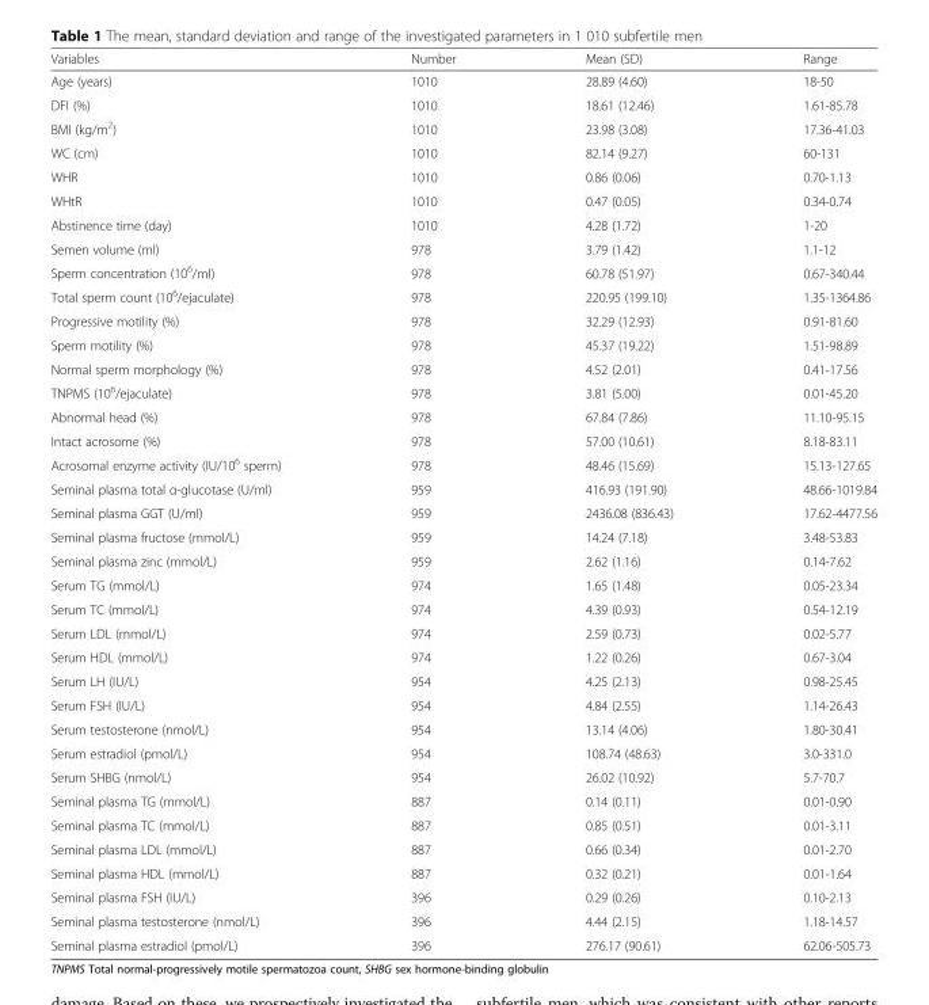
<table><thead><tr><td>Variables</td><td>Number</td><td>Mean (SD)</td><td>Range</td></tr></thead><tbody><tr><td>Age (years)</td><td>1010</td><td>28.89 (4.60)</td><td>18-50</td></tr><tr><td>DFI (%)</td><td>1010</td><td>18.61 (12.46)</td><td>1.61-85.78</td></tr><tr><td>BMI (kg/m<sup>2</sup>)</td><td>1010</td><td>23.98 (3.08)</td><td>17.36-41.03</td></tr><tr><td>WC (cm)</td><td>1010</td><td>82.14 (9.27)</td><td>60-131</td></tr><tr><td>WHR</td><td>1010</td><td>0.86 (0.06)</td><td>0.70-1.13</td></tr><tr><td>WHtR</td><td>1010</td><td>0.47 (0.05)</td><td>0.34-0.74</td></tr><tr><td>Abstinence time (day)</td><td>1010</td><td>4.28 (1.72)</td><td>1-20</td></tr><tr><td>Semen volume (ml)</td><td>978</td><td>3.79 (1.42)</td><td>1.1-12</td></tr><tr><td>Sperm concentration (10<sup>6</sup>/ml)</td><td>978</td><td>60.78 (51.97)</td><td>0.67-340.44</td></tr><tr><td>Total sperm count (10<sup>6</sup>/ejaculate)</td><td>978</td><td>220.95 (199.10)</td><td>1.35-1364.86</td></tr><tr><td>Progressive motility (%)</td><td>978</td><td>32.29 (12.93)</td><td>0.91-81.60</td></tr><tr><td>Sperm motility (%)</td><td>978</td><td>45.37 (19.22)</td><td>1.51-98.89</td></tr><tr><td>Normal sperm morphology (%)</td><td>978</td><td>4.52 (2.01)</td><td>0.41-17.56</td></tr><tr><td>TNPMS (10<sup>6</sup>/ejaculate)</td><td>978</td><td>3.81 (5.00)</td><td>0.01-45.20</td></tr><tr><td>Abnormal head (%)</td><td>978</td><td>67.84 (7.86)</td><td>11.10-95.15</td></tr><tr><td>Intact acrosome (%)</td><td>978</td><td>57.00 (10.61)</td><td>8.18-83.11</td></tr><tr><td>Acrosomal enzyme activity (IU/10<sup>6</sup> sperm)</td><td>978</td><td>48.46 (15.69)</td><td>15.13-127.65</td></tr><tr><td>Seminal plasma total α-glucotase (U/ml)</td><td>959</td><td>416.93 (191.90)</td><td>48.66-1019.84</td></tr><tr><td>Seminal plasma GGT (U/ml)</td><td>959</td><td>2436.08 (836.43)</td><td>17.62-4477.56</td></tr><tr><td>Seminal plasma fructose (mmol/L)</td><td>959</td><td>14.24 (7.18)</td><td>3.48-53.83</td></tr><tr><td>Seminal plasma zinc (mmol/L)</td><td>959</td><td>2.62 (1.16)</td><td>0.14-7.62</td></tr><tr><td>Serum TG (mmol/L)</td><td>974</td><td>1.65 (1.48)</td><td>0.05-23.34</td></tr><tr><td>Serum TC (mmol/L)</td><td>974</td><td>4.39 (0.93)</td><td>0.54-12.19</td></tr><tr><td>Serum LDL (mmol/L)</td><td>974</td><td>2.59 (0.73)</td><td>0.02-5.77</td></tr><tr><td>Serum HDL (mmol/L)</td><td>974</td><td>1.22 (0.26)</td><td>0.67-3.04</td></tr><tr><td>Serum LH (IU/L)</td><td>954</td><td>4.25 (2.13)</td><td>0.98-25.45</td></tr><tr><td>Serum FSH (IU/L)</td><td>954</td><td>4.84 (2.55)</td><td>1.14-26.43</td></tr><tr><td>Serum testosterone (nmol/L)</td><td>954</td><td>13.14 (4.06)</td><td>1.80-30.41</td></tr><tr><td>Serum estradiol (pmol/L)</td><td>954</td><td>108.74 (48.63)</td><td>3.0-331.0</td></tr><tr><td>Serum SHBG (nmol/L)</td><td>954</td><td>26.02 (10.92)</td><td>5.7-70.7</td></tr><tr><td>Seminal plasma TG (mmol/L)</td><td>887</td><td>0.14 (0.11)</td><td>0.01-0.90</td></tr><tr><td>Seminal plasma TC (mmol/L)</td><td>887</td><td>0.85 (0.51)</td><td>0.01-3.11</td></tr><tr><td>Seminal plasma LDL (mmol/L)</td><td>887</td><td>0.66 (0.34)</td><td>0.01-2.70</td></tr><tr><td>Seminal plasma HDL (mmol/L)</td><td>887</td><td>0.32 (0.21)</td><td>0.01-1.64</td></tr><tr><td>Seminal plasma FSH (IU/L)</td><td>396</td><td>0.29 (0.26)</td><td>0.10-2.13</td></tr><tr><td>Seminal plasma testosterone (nmol/L)</td><td>396</td><td>4.44 (2.15)</td><td>1.18-14.57</td></tr><tr><td>Seminal plasma estradiol (pmol/L)</td><td>396</td><td>276.17 (90.61)</td><td>62.06-505.73</td></tr></tbody></table>